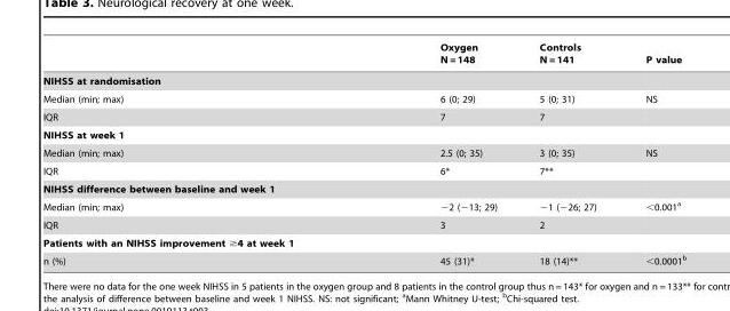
<table><thead><tr><td></td><td>Oxygen N = 148</td><td>Controls N = 141</td><td>P value</td></tr></thead><tbody><tr><td colspan="4">NIHSS at randomisation</td></tr><tr><td>Median (min; max)</td><td>6 (0; 29)</td><td>5 (0; 31)</td><td>NS</td></tr><tr><td>IQR</td><td>7</td><td>7</td><td></td></tr><tr><td colspan="4">NIHSS at week 1</td></tr><tr><td>Median (min; max)</td><td>2.5 (0; 35)</td><td>3 (0; 35)</td><td>NS</td></tr><tr><td>IQR</td><td>6*</td><td>7**</td><td></td></tr><tr><td colspan="4">NIHSS difference between baseline and week 1</td></tr><tr><td>Median (min; max)</td><td>−2 (−13; 29)</td><td>−1 (−26; 27)</td><td>&lt;0.001<sup>a</sup></td></tr><tr><td>IQR</td><td>3</td><td>2</td><td></td></tr><tr><td colspan="4">Patients with an NIHSS improvement ≥4 at week 1</td></tr><tr><td>n (%)</td><td>45 (31)*</td><td>18 (14)**</td><td>&lt;0.0001<sup>b</sup></td></tr></tbody></table>